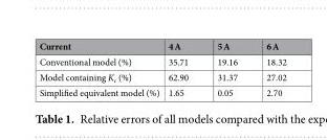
<table><thead><tr><td>Current</td><td>4 A</td><td>5 A</td><td>6 A</td></tr></thead><tbody><tr><td>Conventional model (%)</td><td>35.71</td><td>19.16</td><td>18.32</td></tr><tr><td>Model containing K<sub>c</sub> (%)</td><td>62.90</td><td>31.37</td><td>27.02</td></tr><tr><td>Simplified equivalent model (%)</td><td>1.65</td><td>0.05</td><td>2.70</td></tr></tbody></table>